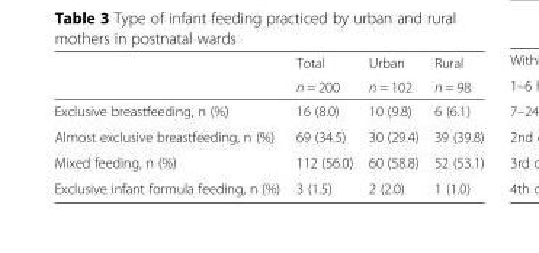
<table><thead><tr><td rowspan="2"></td><td rowspan="2">Total n = 200</td><td rowspan="2">Urban n = 102</td><td rowspan="2">Rural n = 98</td></tr><tr></tr></thead><tbody><tr><td>Exclusive breastfeeding, n (%)</td><td>16 (8.0)</td><td>10 (9.8)</td><td>6 (6.1)</td></tr><tr><td>Almost exclusive breastfeeding, n (%)</td><td>69 (34.5)</td><td>30 (29.4)</td><td>39 (39.8)</td></tr><tr><td>Mixed feeding, n (%)</td><td>112 (56.0)</td><td>60 (58.8)</td><td>52 (53.1)</td></tr><tr><td>Exclusive infant formula feeding, n (%)</td><td>3 (1.5)</td><td>2 (2.0)</td><td>1 (1.0)</td></tr></tbody></table>